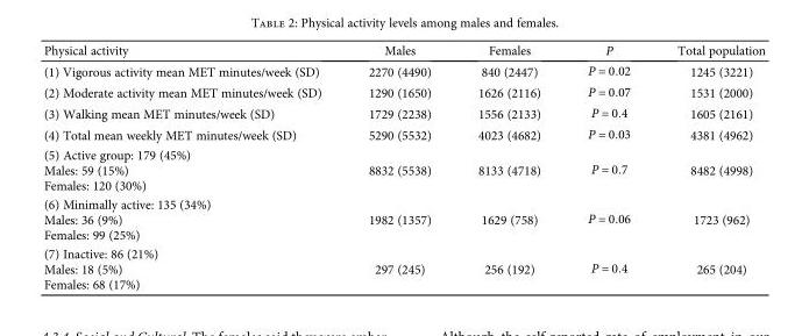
<table><thead><tr><td>Physical activity</td><td>Males</td><td>Females</td><td>P</td><td>Total population</td></tr></thead><tbody><tr><td>(1) Vigorous activity mean MET minutes/week (SD)</td><td>2270 (4490)</td><td>840 (2447)</td><td>P = 0 02</td><td>1245 (3221)</td></tr><tr><td>(2) Moderate activity mean MET minutes/week (SD)</td><td>1290 (1650)</td><td>1626 (2116)</td><td>P = 0 07</td><td>1531 (2000)</td></tr><tr><td>(3) Walking mean MET minutes/week (SD)</td><td>1729 (2238)</td><td>1556 (2133)</td><td>P = 0 4</td><td>1605 (2161)</td></tr><tr><td>(4) Total mean weekly MET minutes/week (SD)</td><td>5290 (5532)</td><td>4023 (4682)</td><td>P = 0 03</td><td>4381 (4962)</td></tr><tr><td>(5) Active group: 179 (45%) Males: 59 (15%) Females: 120 (30%)</td><td>8832 (5538)</td><td>8133 (4718)</td><td>P = 0 7</td><td>8482 (4998)</td></tr><tr><td>(6) Minimally active: 135 (34%) Males: 36 (9%) Females: 99 (25%)</td><td>1982 (1357)</td><td>1629 (758)</td><td>P = 0 06</td><td>1723 (962)</td></tr><tr><td>(7) Inactive: 86 (21%) Males: 18 (5%) Females: 68 (17%)</td><td>297 (245)</td><td>256 (192)</td><td>P = 0 4</td><td>265 (204)</td></tr></tbody></table>